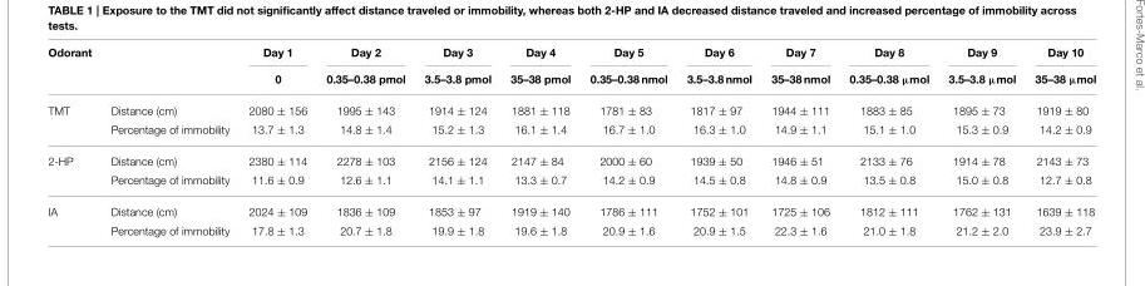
<table><thead><tr><td rowspan="2">Odorant</td><td rowspan="2"></td><td rowspan="2">Day 1 0</td><td rowspan="2">Day 2 0.35–0.38 pmol</td><td rowspan="2">Day 3 3.5–3.8 pmol</td><td rowspan="2">Day 4 35–38 pmol</td><td rowspan="2">Day 5 0.35–0.38 nmol</td><td rowspan="2">Day 6 3.5–3.8 nmol</td><td rowspan="2">Day 7 35–38 nmol</td><td rowspan="2">Day 8 0.35–0.38 µmol</td><td rowspan="2">Day 9 3.5–3.8 µmol</td><td rowspan="2">Day 10 35–38 µmol</td></tr><tr></tr></thead><tbody><tr><td rowspan="2">TMT</td><td>Distance (cm)</td><td>2080 ± 156</td><td>1995 ± 143</td><td>1914 ± 124</td><td>1881 ± 118</td><td>1781 ± 83</td><td>1817 ± 97</td><td>1944 ± 111</td><td>1883 ± 85</td><td>1895 ± 73</td><td>1919 ± 80</td></tr><tr><td>Percentage of immobility</td><td>13.7 ± 1.3</td><td>14.8 ± 1.4</td><td>15.2 ± 1.3</td><td>16.1 ± 1.4</td><td>16.7 ± 1.0</td><td>16.3 ± 1.0</td><td>14.9 ± 1.1</td><td>15.1 ± 1.0</td><td>15.3 ± 0.9</td><td>14.2 ± 0.9</td></tr><tr><td rowspan="2">2-HP</td><td>Distance (cm)</td><td>2380 ± 114</td><td>2278 ± 103</td><td>2156 ± 124</td><td>2147 ± 84</td><td>2000 ± 60</td><td>1939 ± 50</td><td>1946 ± 51</td><td>2133 ± 76</td><td>1914 ± 78</td><td>2143 ± 73</td></tr><tr><td>Percentage of immobility</td><td>11.6 ± 0.9</td><td>12.6 ± 1.1</td><td>14.1 ± 1.1</td><td>13.3 ± 0.7</td><td>14.2 ± 0.9</td><td>14.5 ± 0.8</td><td>14.8 ± 0.9</td><td>13.5 ± 0.8</td><td>15.0 ± 0.8</td><td>12.7 ± 0.8</td></tr><tr><td rowspan="2">IA</td><td>Distance (cm)</td><td>2024 ± 109</td><td>1836 ± 109</td><td>1853 ± 97</td><td>1919 ± 140</td><td>1786 ± 111</td><td>1752 ± 101</td><td>1725 ± 106</td><td>1812 ± 111</td><td>1762 ± 131</td><td>1639 ± 118</td></tr><tr><td>Percentage of immobility</td><td>17.8 ± 1.3</td><td>20.7 ± 1.8</td><td>19.9 ± 1.8</td><td>19.6 ± 1.8</td><td>20.9 ± 1.6</td><td>20.9 ± 1.5</td><td>22.3 ± 1.6</td><td>21.0 ± 1.8</td><td>21.2 ± 2.0</td><td>23.9 ± 2.7</td></tr></tbody></table>